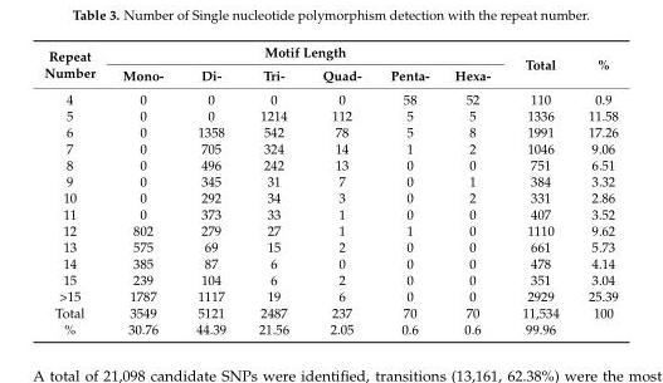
<table><thead><tr><td rowspan="2">Repeat Number</td><td colspan="6">Motif Length</td><td rowspan="2">Total</td><td rowspan="2">%</td></tr><tr><td>Mono-</td><td>Di-</td><td>Tri-</td><td>Quad-</td><td>Penta-</td><td>Hexa-</td></tr></thead><tbody><tr><td>4</td><td>0</td><td>0</td><td>0</td><td>0</td><td>58</td><td>52</td><td>110</td><td>0.9</td></tr><tr><td>5</td><td>0</td><td>0</td><td>1214</td><td>112</td><td>5</td><td>5</td><td>1336</td><td>11.58</td></tr><tr><td>6</td><td>0</td><td>1358</td><td>542</td><td>78</td><td>5</td><td>8</td><td>1991</td><td>17.26</td></tr><tr><td>7</td><td>0</td><td>705</td><td>324</td><td>14</td><td>1</td><td>2</td><td>1046</td><td>9.06</td></tr><tr><td>8</td><td>0</td><td>496</td><td>242</td><td>13</td><td>0</td><td>0</td><td>751</td><td>6.51</td></tr><tr><td>9</td><td>0</td><td>345</td><td>31</td><td>7</td><td>0</td><td>1</td><td>384</td><td>3.32</td></tr><tr><td>10</td><td>0</td><td>292</td><td>34</td><td>3</td><td>0</td><td>2</td><td>331</td><td>2.86</td></tr><tr><td>11</td><td>0</td><td>373</td><td>33</td><td>1</td><td>0</td><td>0</td><td>407</td><td>3.52</td></tr><tr><td>12</td><td>802</td><td>279</td><td>27</td><td>1</td><td>1</td><td>0</td><td>1110</td><td>9.62</td></tr><tr><td>13</td><td>575</td><td>69</td><td>15</td><td>2</td><td>0</td><td>0</td><td>661</td><td>5.73</td></tr><tr><td>14</td><td>385</td><td>87</td><td>6</td><td>0</td><td>0</td><td>0</td><td>478</td><td>4.14</td></tr><tr><td>15</td><td>239</td><td>104</td><td>6</td><td>2</td><td>0</td><td>0</td><td>351</td><td>3.04</td></tr><tr><td>&gt;15</td><td>1787</td><td>1117</td><td>19</td><td>6</td><td>0</td><td>0</td><td>2929</td><td>25.39</td></tr><tr><td>Total</td><td>3549</td><td>5121</td><td>2487</td><td>237</td><td>70</td><td>70</td><td>11,534</td><td>100</td></tr><tr><td>%</td><td>30.76</td><td>44.39</td><td>21.56</td><td>2.05</td><td>0.6</td><td>0.6</td><td>99.96</td><td></td></tr></tbody></table>